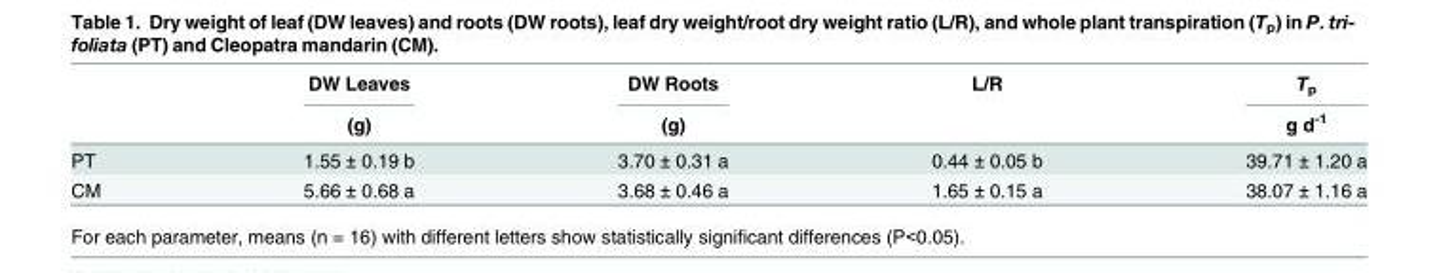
<table><thead><tr><td rowspan="2"></td><td rowspan="2">DW Leaves (g)</td><td rowspan="2">DW Roots (g)</td><td rowspan="2">L/R</td><td rowspan="2">T<sub>p</sub> g d<sup>-1</sup></td></tr><tr></tr></thead><tbody><tr><td>PT</td><td>1.55 ± 0.19 b</td><td>3.70 ± 0.31 a</td><td>0.44 ± 0.05 b</td><td>39.71 ± 1.20 a</td></tr><tr><td>CM</td><td>5.66 ± 0.68 a</td><td>3.68 ± 0.46 a</td><td>1.65 ± 0.15 a</td><td>38.07 ± 1.16 a</td></tr></tbody></table>